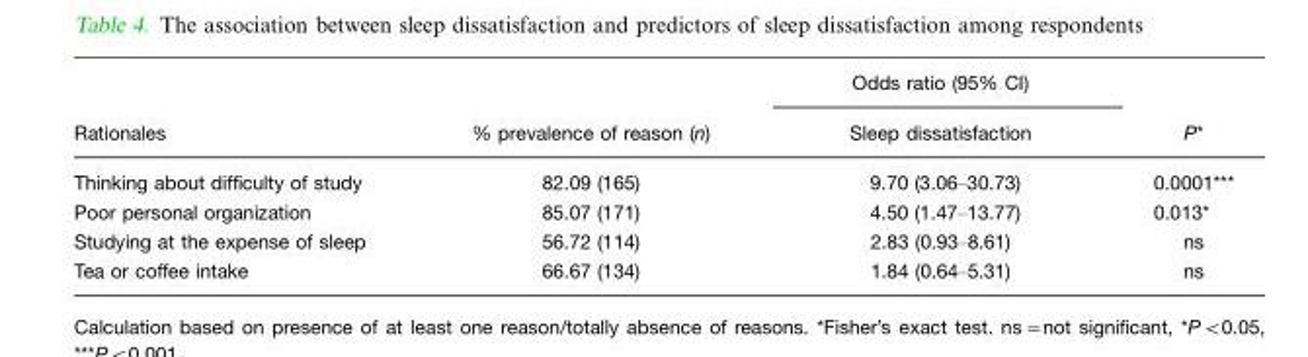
<table><thead><tr><td rowspan="2">Rationales</td><td rowspan="2">% prevalence of reason (n)</td><td rowspan="2">Odds ratio (95% CI) Sleep dissatisfaction</td><td rowspan="2">P*</td></tr><tr></tr></thead><tbody><tr><td>Thinking about difficulty of study</td><td>82.09 (165)</td><td>9.70 (3.06–30.73)</td><td>0.0001***</td></tr><tr><td>Poor personal organization</td><td>85.07 (171)</td><td>4.50 (1.47–13.77)</td><td>0.013*</td></tr><tr><td>Studying at the expense of sleep</td><td>56.72 (114)</td><td>2.83 (0.93–8.61)</td><td>ns</td></tr><tr><td>Tea or coffee intake</td><td>66.67 (134)</td><td>1.84 (0.64–5.31)</td><td>ns</td></tr></tbody></table>